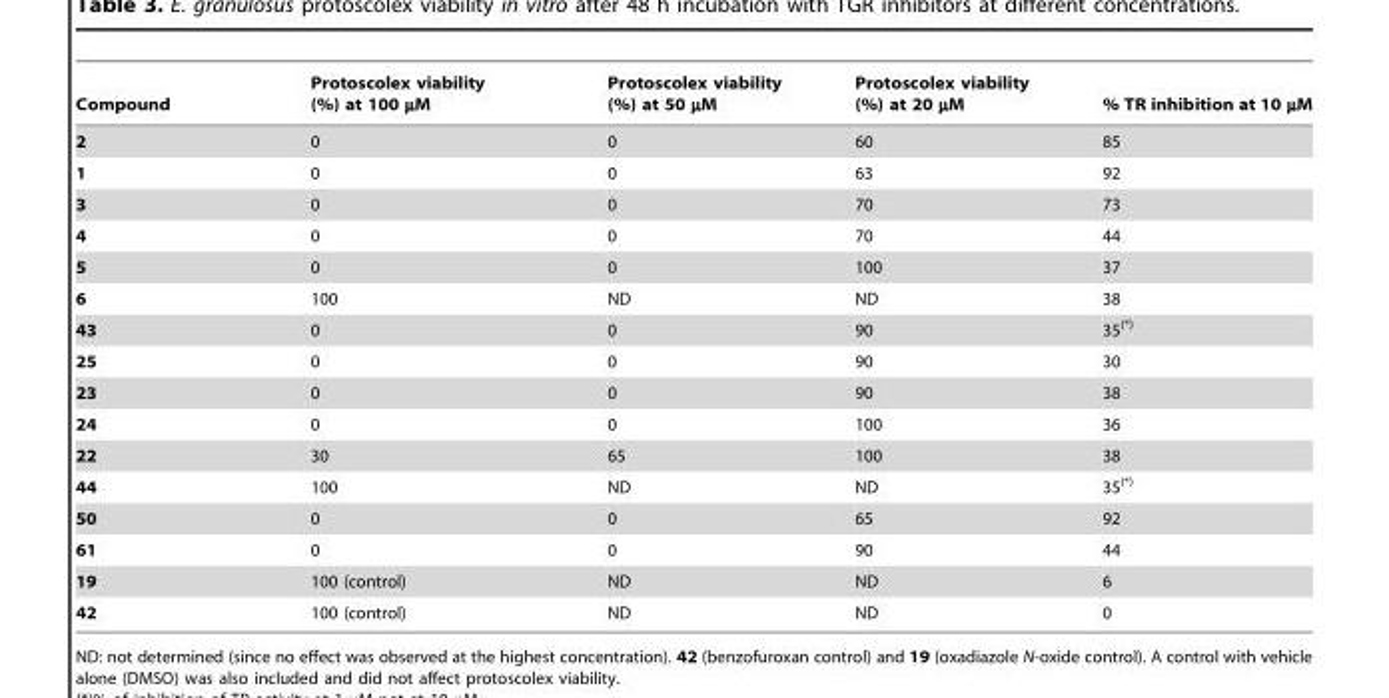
<table><thead><tr><td>Compound</td><td>Protoscolex viability (%) at 100 µM</td><td>Protoscolex viability (%) at 50 µM</td><td>Protoscolex viability (%) at 20 µM</td><td>% TR inhibition at 10 µM</td></tr></thead><tbody><tr><td>2</td><td>0</td><td>0</td><td>60</td><td>85</td></tr><tr><td>1</td><td>0</td><td>0</td><td>63</td><td>92</td></tr><tr><td>3</td><td>0</td><td>0</td><td>70</td><td>73</td></tr><tr><td>4</td><td>0</td><td>0</td><td>70</td><td>44</td></tr><tr><td>5</td><td>0</td><td>0</td><td>100</td><td>37</td></tr><tr><td>6</td><td>100</td><td>ND</td><td>ND</td><td>38</td></tr><tr><td>43</td><td>0</td><td>0</td><td>90</td><td>35(*)</td></tr><tr><td>25</td><td>0</td><td>0</td><td>90</td><td>30</td></tr><tr><td>23</td><td>0</td><td>0</td><td>90</td><td>38</td></tr><tr><td>24</td><td>0</td><td>0</td><td>100</td><td>36</td></tr><tr><td>22</td><td>30</td><td>65</td><td>100</td><td>38</td></tr><tr><td>44</td><td>100</td><td>ND</td><td>ND</td><td>35(*)</td></tr><tr><td>50</td><td>0</td><td>0</td><td>65</td><td>92</td></tr><tr><td>61</td><td>0</td><td>0</td><td>90</td><td>44</td></tr><tr><td>19</td><td>100 (control)</td><td>ND</td><td>ND</td><td>6</td></tr><tr><td>42</td><td>100 (control)</td><td>ND</td><td>ND</td><td>0</td></tr></tbody></table>